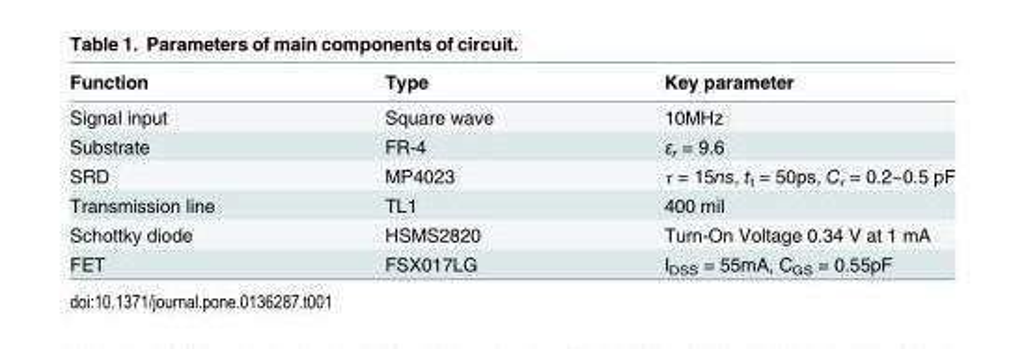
<table><thead><tr><td>Function</td><td>Type</td><td>Key parameter</td></tr></thead><tbody><tr><td>Signal input</td><td>Square wave</td><td>10MHz</td></tr><tr><td>Substrate</td><td>FR-4</td><td>ε<sub>r</sub> = 9.6</td></tr><tr><td>SRD</td><td>MP4023</td><td>τ = 15ns, t<sub>t</sub> = 50ps, C<sub>r</sub> = 0.2~0.5 pF</td></tr><tr><td>Transmission line</td><td>TL1</td><td>400 mil</td></tr><tr><td>Schottky diode</td><td>HSMS2820</td><td>Turn‑On Voltage 0.34 V at 1 mA</td></tr><tr><td>FET</td><td>FSX017LG</td><td>I<sub>DSS</sub> = 55mA, C<sub>GS</sub> = 0.55pF</td></tr></tbody></table>